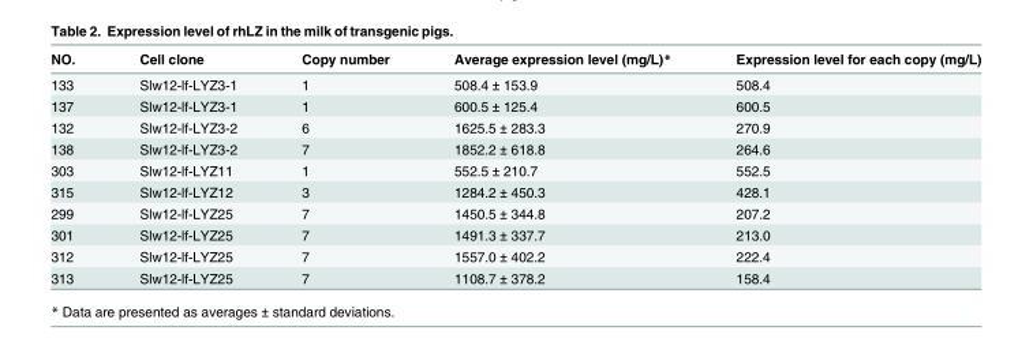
<table><thead><tr><td>NO.</td><td>Cell clone</td><td>Copy number</td><td>Average expression level (mg/L)*</td><td>Expression level for each copy (mg/L)</td></tr></thead><tbody><tr><td>133</td><td>Slw12-lf-LYZ3-1</td><td>1</td><td>508.4 ± 153.9</td><td>508.4</td></tr><tr><td>137</td><td>Slw12-lf-LYZ3-1</td><td>1</td><td>600.5 ± 125.4</td><td>600.5</td></tr><tr><td>132</td><td>Slw12-lf-LYZ3-2</td><td>6</td><td>1625.5 ± 283.3</td><td>270.9</td></tr><tr><td>138</td><td>Slw12-lf-LYZ3-2</td><td>7</td><td>1852.2 ± 618.8</td><td>264.6</td></tr><tr><td>303</td><td>Slw12-lf-LYZ11</td><td>1</td><td>552.5 ± 210.7</td><td>552.5</td></tr><tr><td>315</td><td>Slw12-lf-LYZ12</td><td>3</td><td>1284.2 ± 450.3</td><td>428.1</td></tr><tr><td>299</td><td>Slw12-lf-LYZ25</td><td>7</td><td>1450.5 ± 344.8</td><td>207.2</td></tr><tr><td>301</td><td>Slw12-lf-LYZ25</td><td>7</td><td>1491.3 ± 337.7</td><td>213.0</td></tr><tr><td>312</td><td>Slw12-lf-LYZ25</td><td>7</td><td>1557.0 ± 402.2</td><td>222.4</td></tr><tr><td>313</td><td>Slw12-lf-LYZ25</td><td>7</td><td>1108.7 ± 378.2</td><td>158.4</td></tr></tbody></table>